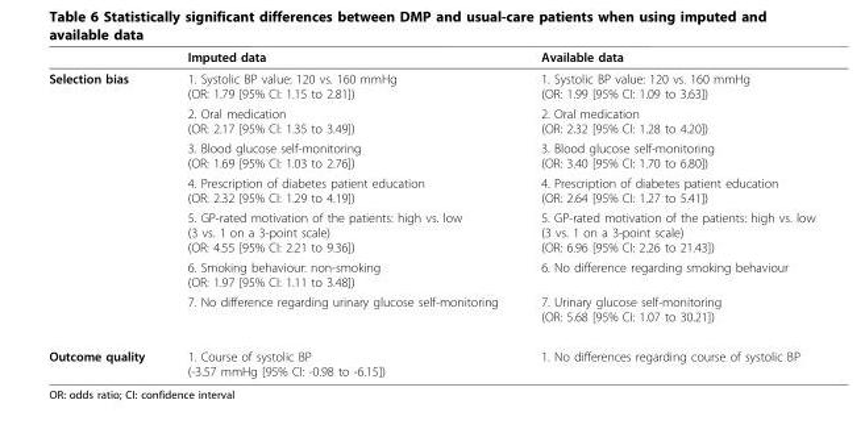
<table><thead><tr><td></td><td>Imputed data</td><td>Available data</td></tr></thead><tbody><tr><td rowspan="7">Selection bias</td><td>1. Systolic BP value: 120 vs. 160 mmHg (OR: 1.79 [95% CI: 1.15 to 2.81])</td><td>1. Systolic BP value: 120 vs. 160 mmHg (OR: 1.99 [95% CI: 1.09 to 3.63])</td></tr><tr><td>2. Oral medication (OR: 2.17 [95% CI: 1.35 to 3.49])</td><td>2. Oral medication (OR: 2.32 [95% CI: 1.28 to 4.20])</td></tr><tr><td>3. Blood glucose self-monitoring (OR: 1.69 [95% CI: 1.03 to 2.76])</td><td>3. Blood glucose self-monitoring (OR: 3.40 [95% CI: 1.70 to 6.80])</td></tr><tr><td>4. Prescription of diabetes patient education (OR: 2.32 [95% CI: 1.29 to 4.19])</td><td>4. Prescription of diabetes patient education (OR: 2.64 [95% CI: 1.27 to 5.41])</td></tr><tr><td>5. GP-rated motivation of the patients: high vs. low (3 vs. 1 on a 3-point scale) (OR: 4.55 [95% CI: 2.21 to 9.36])</td><td>5. GP-rated motivation of the patients: high vs. low (3 vs. 1 on a 3-point scale) (OR: 6.96 [95% CI: 2.26 to 21.43])</td></tr><tr><td>6. Smoking behaviour: non-smoking (OR: 1.97 [95% CI: 1.11 to 3.48])</td><td>6. No difference regarding smoking behaviour</td></tr><tr><td>7. No difference regarding urinary glucose self-monitoring</td><td>7. Urinary glucose self-monitoring (OR: 5.68 [95% CI: 1.07 to 30.21])</td></tr><tr><td>Outcome quality</td><td>1. Course of systolic BP (-3.57 mmHg [95% CI: -0.98 to -6.15])</td><td>1. No differences regarding course of systolic BP</td></tr></tbody></table>